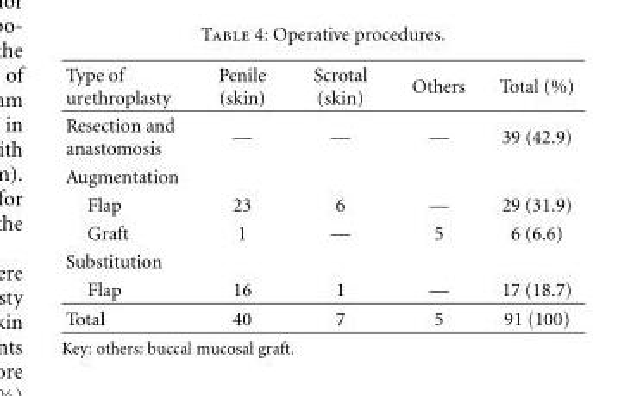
<table><thead><tr><td>Type of urethroplasty</td><td>Penile (skin)</td><td>Scrotal (skin)</td><td>Others</td><td>Total (%)</td></tr></thead><tbody><tr><td>Resection and anastomosis</td><td>—</td><td>—</td><td>—</td><td>39 (42.9)</td></tr><tr><td colspan="5">Augmentation</td></tr><tr><td>Flap</td><td>23</td><td>6</td><td>—</td><td>29 (31.9)</td></tr><tr><td>Graft</td><td>1</td><td>—</td><td>5</td><td>6 (6.6)</td></tr><tr><td colspan="5">Substitution</td></tr><tr><td>Flap</td><td>16</td><td>1</td><td>—</td><td>17 (18.7)</td></tr><tr><td>Total</td><td>40</td><td>7</td><td>5</td><td>91 (100)</td></tr></tbody></table>